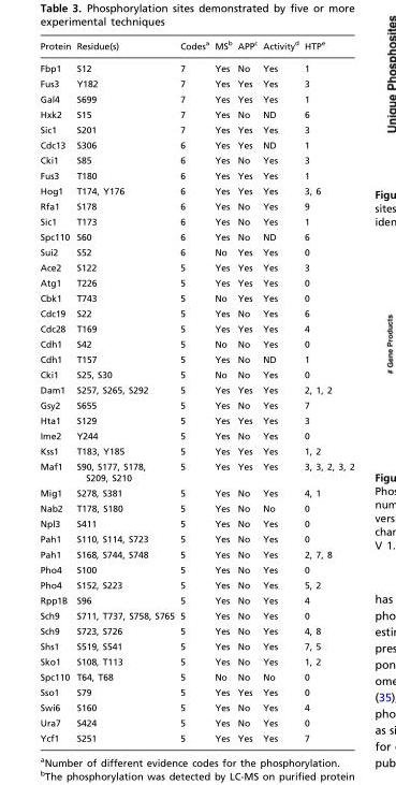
<table><thead><tr><td>Protein</td><td>Residue(s)</td><td>Codes<sup>a</sup></td><td>MS<sup>b</sup></td><td>APP<sup>c</sup></td><td>Activity<sup>d</sup></td><td>HTP<sup>e</sup></td></tr></thead><tbody><tr><td>Fbp1</td><td>S12</td><td>7</td><td>Yes</td><td>No</td><td>Yes</td><td>1</td></tr><tr><td>Fus3</td><td>Y182</td><td>7</td><td>Yes</td><td>Yes</td><td>Yes</td><td>3</td></tr><tr><td>Gal4</td><td>S699</td><td>7</td><td>Yes</td><td>Yes</td><td>Yes</td><td>1</td></tr><tr><td>Hxk2</td><td>S15</td><td>7</td><td>Yes</td><td>No</td><td>ND</td><td>6</td></tr><tr><td>Sic1</td><td>S201</td><td>7</td><td>Yes</td><td>Yes</td><td>Yes</td><td>3</td></tr><tr><td>Cdc13</td><td>S306</td><td>6</td><td>Yes</td><td>Yes</td><td>ND</td><td>1</td></tr><tr><td>Cki1</td><td>S85</td><td>6</td><td>Yes</td><td>No</td><td>Yes</td><td>3</td></tr><tr><td>Fus3</td><td>T180</td><td>6</td><td>Yes</td><td>Yes</td><td>Yes</td><td>1</td></tr><tr><td>Hog1</td><td>T174, Y176</td><td>6</td><td>Yes</td><td>Yes</td><td>Yes</td><td>3, 6</td></tr><tr><td>Rfa1</td><td>S178</td><td>6</td><td>Yes</td><td>No</td><td>Yes</td><td>9</td></tr><tr><td>Sic1</td><td>T173</td><td>6</td><td>Yes</td><td>No</td><td>Yes</td><td>1</td></tr><tr><td>Spc110</td><td>S60</td><td>6</td><td>Yes</td><td>No</td><td>ND</td><td>6</td></tr><tr><td>Sui2</td><td>S52</td><td>6</td><td>No</td><td>Yes</td><td>Yes</td><td>0</td></tr><tr><td>Ace2</td><td>S122</td><td>5</td><td>Yes</td><td>Yes</td><td>Yes</td><td>3</td></tr><tr><td>Atg1</td><td>T226</td><td>5</td><td>Yes</td><td>Yes</td><td>Yes</td><td>0</td></tr><tr><td>Cbk1</td><td>T743</td><td>5</td><td>No</td><td>Yes</td><td>Yes</td><td>0</td></tr><tr><td>Cdc19</td><td>S22</td><td>5</td><td>Yes</td><td>No</td><td>Yes</td><td>6</td></tr><tr><td>Cdc28</td><td>T169</td><td>5</td><td>Yes</td><td>Yes</td><td>Yes</td><td>4</td></tr><tr><td>Cdh1</td><td>S42</td><td>5</td><td>No</td><td>No</td><td>Yes</td><td>0</td></tr><tr><td>Cdh1</td><td>T157</td><td>5</td><td>Yes</td><td>No</td><td>ND</td><td>1</td></tr><tr><td>Cki1</td><td>S25, S30</td><td>5</td><td>No</td><td>No</td><td>Yes</td><td>0</td></tr><tr><td>Dam1</td><td>S257, S265, S292</td><td>5</td><td>Yes</td><td>Yes</td><td>Yes</td><td>2, 1, 2</td></tr><tr><td>Gsy2</td><td>S655</td><td>5</td><td>Yes</td><td>No</td><td>Yes</td><td>7</td></tr><tr><td>Hta1</td><td>S129</td><td>5</td><td>Yes</td><td>Yes</td><td>Yes</td><td>3</td></tr><tr><td>Ime2</td><td>Y244</td><td>5</td><td>Yes</td><td>No</td><td>Yes</td><td>0</td></tr><tr><td>Kss1</td><td>T183, Y185</td><td>5</td><td>Yes</td><td>Yes</td><td>Yes</td><td>1, 2</td></tr><tr><td>Maf1</td><td>S90, S177, S178, S209, S210</td><td>5</td><td>Yes</td><td>Yes</td><td>Yes</td><td>3, 3, 2, 3, 2</td></tr><tr><td>Mig1</td><td>S278, S381</td><td>5</td><td>Yes</td><td>No</td><td>Yes</td><td>4, 1</td></tr><tr><td>Nab2</td><td>T178, S180</td><td>5</td><td>Yes</td><td>No</td><td>No</td><td>0</td></tr><tr><td>Npl3</td><td>S411</td><td>5</td><td>Yes</td><td>No</td><td>Yes</td><td>0</td></tr><tr><td>Pah1</td><td>S110, S114, S723</td><td>5</td><td>Yes</td><td>No</td><td>Yes</td><td>0</td></tr><tr><td>Pah1</td><td>S168, S744, S748</td><td>5</td><td>Yes</td><td>No</td><td>Yes</td><td>2, 7, 8</td></tr><tr><td>Pho4</td><td>S100</td><td>5</td><td>Yes</td><td>No</td><td>Yes</td><td>0</td></tr><tr><td>Pho4</td><td>S152, S223</td><td>5</td><td>Yes</td><td>No</td><td>Yes</td><td>5, 2</td></tr><tr><td>Rpp1B</td><td>S96</td><td>5</td><td>Yes</td><td>No</td><td>Yes</td><td>4</td></tr><tr><td>Sch9</td><td>S711, T737, S758, S765</td><td>5</td><td>Yes</td><td>No</td><td>Yes</td><td>0</td></tr><tr><td>Sch9</td><td>S723, S726</td><td>5</td><td>Yes</td><td>No</td><td>Yes</td><td>4, 8</td></tr><tr><td>Shs1</td><td>S519, S541</td><td>5</td><td>Yes</td><td>No</td><td>Yes</td><td>7, 5</td></tr><tr><td>Sko1</td><td>S108, T113</td><td>5</td><td>Yes</td><td>No</td><td>Yes</td><td>1, 2</td></tr><tr><td>Spc110</td><td>T64, T68</td><td>5</td><td>No</td><td>No</td><td>No</td><td>0</td></tr><tr><td>Sso1</td><td>S79</td><td>5</td><td>Yes</td><td>Yes</td><td>Yes</td><td>0</td></tr><tr><td>Swi6</td><td>S160</td><td>5</td><td>Yes</td><td>No</td><td>Yes</td><td>4</td></tr><tr><td>Ura7</td><td>S424</td><td>5</td><td>Yes</td><td>No</td><td>Yes</td><td>0</td></tr><tr><td>Ycf1</td><td>S251</td><td>5</td><td>Yes</td><td>Yes</td><td>Yes</td><td>7</td></tr></tbody></table>